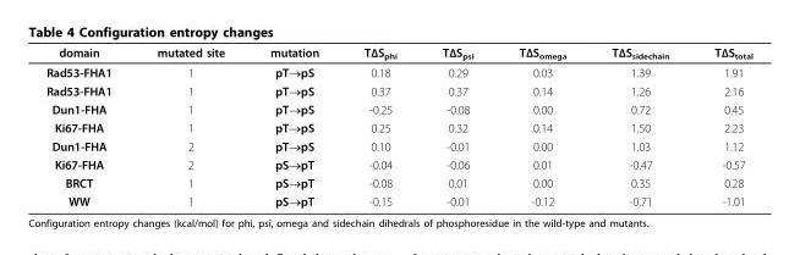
<table><thead><tr><td>domain</td><td>mutated site</td><td>mutation</td><td>TΔS<sub>phi</sub></td><td>TΔS<sub>psi</sub></td><td>TΔS<sub>omega</sub></td><td>TΔS<sub>sidechain</sub></td><td>TΔS<sub>total</sub></td></tr></thead><tbody><tr><td>Rad53-FHA1</td><td>1</td><td>pT→pS</td><td>0.18</td><td>0.29</td><td>0.03</td><td>1.39</td><td>1.91</td></tr><tr><td>Rad53-FHA1</td><td>1</td><td>pT→pS</td><td>0.37</td><td>0.37</td><td>0.14</td><td>1.26</td><td>2.16</td></tr><tr><td>Dun1-FHA</td><td>1</td><td>pT→pS</td><td>-0.25</td><td>-0.08</td><td>0.00</td><td>0.72</td><td>0.45</td></tr><tr><td>Ki67-FHA</td><td>1</td><td>pT→pS</td><td>0.25</td><td>0.32</td><td>0.14</td><td>1.50</td><td>2.23</td></tr><tr><td>Dun1-FHA</td><td>2</td><td>pT→pS</td><td>0.10</td><td>-0.01</td><td>0.00</td><td>1.03</td><td>1.12</td></tr><tr><td>Ki67-FHA</td><td>2</td><td>pS→pT</td><td>-0.04</td><td>-0.06</td><td>0.01</td><td>-0.47</td><td>-0.57</td></tr><tr><td>BRCT</td><td>1</td><td>pS→pT</td><td>-0.08</td><td>0.01</td><td>0.00</td><td>0.35</td><td>0.28</td></tr><tr><td>WW</td><td>1</td><td>pS→pT</td><td>-0.15</td><td>-0.01</td><td>-0.12</td><td>-0.71</td><td>-1.01</td></tr></tbody></table>